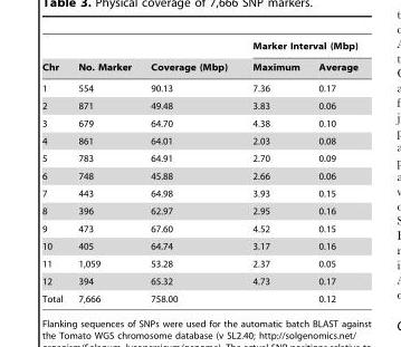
<table><thead><tr><td rowspan="2">Chr</td><td rowspan="2">No. Marker</td><td rowspan="2">Coverage (Mbp)</td><td colspan="2">Marker Interval (Mbp)</td></tr><tr><td>Maximum</td><td>Average</td></tr></thead><tbody><tr><td>1</td><td>554</td><td>90.13</td><td>7.36</td><td>0.17</td></tr><tr><td>2</td><td>871</td><td>49.48</td><td>3.83</td><td>0.06</td></tr><tr><td>3</td><td>679</td><td>64.70</td><td>4.38</td><td>0.10</td></tr><tr><td>4</td><td>861</td><td>64.01</td><td>2.03</td><td>0.08</td></tr><tr><td>5</td><td>783</td><td>64.91</td><td>2.70</td><td>0.09</td></tr><tr><td>6</td><td>748</td><td>45.88</td><td>2.66</td><td>0.06</td></tr><tr><td>7</td><td>443</td><td>64.98</td><td>3.93</td><td>0.15</td></tr><tr><td>8</td><td>396</td><td>62.97</td><td>2.95</td><td>0.16</td></tr><tr><td>9</td><td>473</td><td>67.60</td><td>4.52</td><td>0.15</td></tr><tr><td>10</td><td>405</td><td>64.74</td><td>3.17</td><td>0.16</td></tr><tr><td>11</td><td>1,059</td><td>53.28</td><td>2.37</td><td>0.05</td></tr><tr><td>12</td><td>394</td><td>65.32</td><td>4.73</td><td>0.17</td></tr><tr><td>Total</td><td>7,666</td><td>758.00</td><td></td><td>0.12</td></tr></tbody></table>